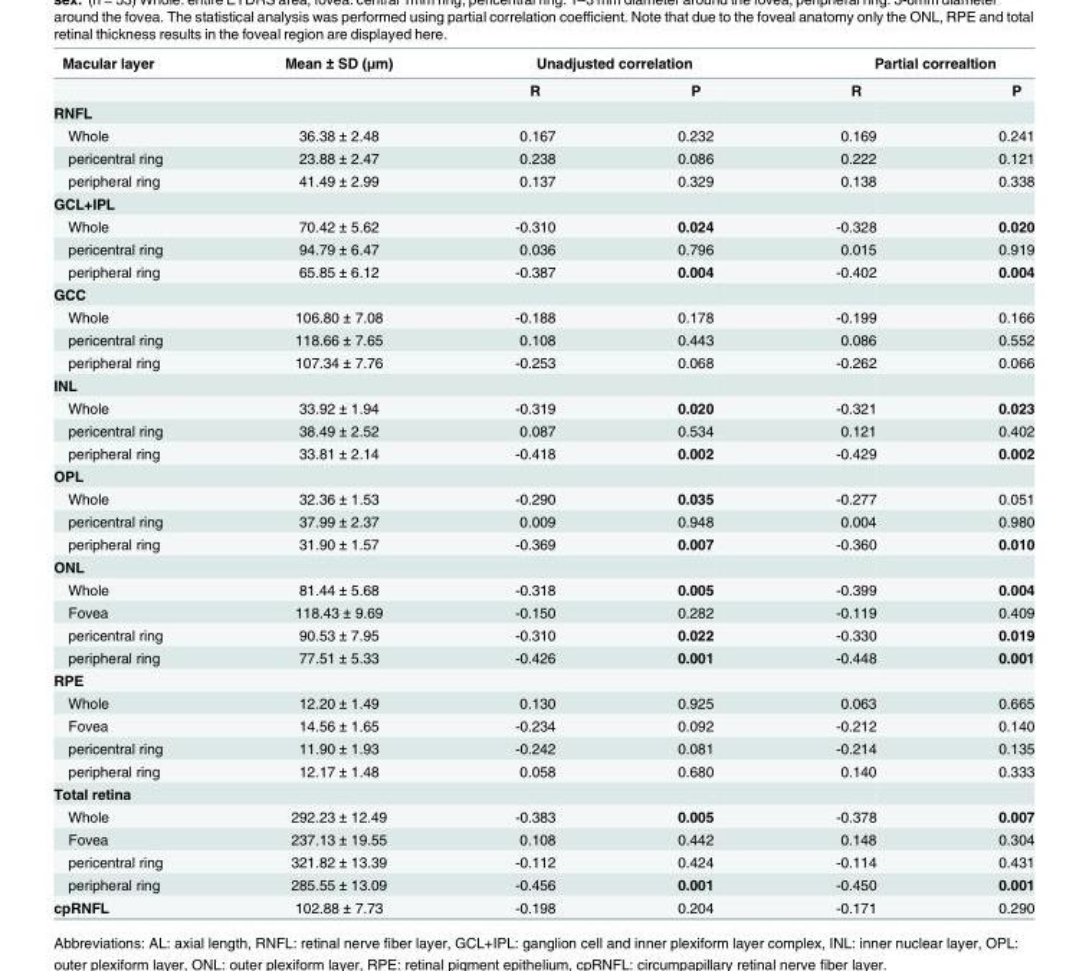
<table><thead><tr><td rowspan="2">Macular layer</td><td rowspan="2">Mean ± SD (μm)</td><td colspan="2">Unadjusted correlation</td><td colspan="2">Partial correaltion</td></tr><tr><td>R</td><td>P</td><td>R</td><td>P</td></tr></thead><tbody><tr><td colspan="6">RNFL</td></tr><tr><td>Whole</td><td>36.38 ± 2.48</td><td>0.167</td><td>0.232</td><td>0.169</td><td>0.241</td></tr><tr><td>pericentral ring</td><td>23.88 ± 2.47</td><td>0.238</td><td>0.086</td><td>0.222</td><td>0.121</td></tr><tr><td>peripheral ring</td><td>41.49 ± 2.99</td><td>0.137</td><td>0.329</td><td>0.138</td><td>0.338</td></tr><tr><td colspan="6">GCL+IPL</td></tr><tr><td>Whole</td><td>70.42 ± 5.62</td><td>-0.310</td><td>0.024</td><td>-0.328</td><td>0.020</td></tr><tr><td>pericentral ring</td><td>94.79 ± 6.47</td><td>0.036</td><td>0.796</td><td>0.015</td><td>0.919</td></tr><tr><td>peripheral ring</td><td>65.85 ± 6.12</td><td>-0.387</td><td>0.004</td><td>-0.402</td><td>0.004</td></tr><tr><td colspan="6">GCC</td></tr><tr><td>Whole</td><td>106.80 ± 7.08</td><td>-0.188</td><td>0.178</td><td>-0.199</td><td>0.166</td></tr><tr><td>pericentral ring</td><td>118.66 ± 7.65</td><td>0.108</td><td>0.443</td><td>0.086</td><td>0.552</td></tr><tr><td>peripheral ring</td><td>107.34 ± 7.76</td><td>-0.253</td><td>0.068</td><td>-0.262</td><td>0.066</td></tr><tr><td colspan="6">INL</td></tr><tr><td>Whole</td><td>33.92 ± 1.94</td><td>-0.319</td><td>0.020</td><td>-0.321</td><td>0.023</td></tr><tr><td>pericentral ring</td><td>38.49 ± 2.52</td><td>0.087</td><td>0.534</td><td>0.121</td><td>0.402</td></tr><tr><td>peripheral ring</td><td>33.81 ± 2.14</td><td>-0.418</td><td>0.002</td><td>-0.429</td><td>0.002</td></tr><tr><td colspan="6">OPL</td></tr><tr><td>Whole</td><td>32.36 ± 1.53</td><td>-0.290</td><td>0.035</td><td>-0.277</td><td>0.051</td></tr><tr><td>pericentral ring</td><td>37.99 ± 2.37</td><td>0.009</td><td>0.948</td><td>0.004</td><td>0.980</td></tr><tr><td>peripheral ring</td><td>31.90 ± 1.57</td><td>-0.369</td><td>0.007</td><td>-0.360</td><td>0.010</td></tr><tr><td colspan="6">ONL</td></tr><tr><td>Whole</td><td>81.44 ± 5.68</td><td>-0.318</td><td>0.005</td><td>-0.399</td><td>0.004</td></tr><tr><td>Fovea</td><td>118.43 ± 9.69</td><td>-0.150</td><td>0.282</td><td>-0.119</td><td>0.409</td></tr><tr><td>pericentral ring</td><td>90.53 ± 7.95</td><td>-0.310</td><td>0.022</td><td>-0.330</td><td>0.019</td></tr><tr><td>peripheral ring</td><td>77.51 ± 5.33</td><td>-0.426</td><td>0.001</td><td>-0.448</td><td>0.001</td></tr><tr><td colspan="6">RPE</td></tr><tr><td>Whole</td><td>12.20 ± 1.49</td><td>0.130</td><td>0.925</td><td>0.063</td><td>0.665</td></tr><tr><td>Fovea</td><td>14.56 ± 1.65</td><td>-0.234</td><td>0.092</td><td>-0.212</td><td>0.140</td></tr><tr><td>pericentral ring</td><td>11.90 ± 1.93</td><td>-0.242</td><td>0.081</td><td>-0.214</td><td>0.135</td></tr><tr><td>peripheral ring</td><td>12.17 ± 1.48</td><td>0.058</td><td>0.680</td><td>0.140</td><td>0.333</td></tr><tr><td colspan="6">Total retina</td></tr><tr><td>Whole</td><td>292.23 ± 12.49</td><td>-0.383</td><td>0.005</td><td>-0.378</td><td>0.007</td></tr><tr><td>Fovea</td><td>237.13 ± 19.55</td><td>0.108</td><td>0.442</td><td>0.148</td><td>0.304</td></tr><tr><td>pericentral ring</td><td>321.82 ± 13.39</td><td>-0.112</td><td>0.424</td><td>-0.114</td><td>0.431</td></tr><tr><td>peripheral ring</td><td>285.55 ± 13.09</td><td>-0.456</td><td>0.001</td><td>-0.450</td><td>0.001</td></tr><tr><td>cpRNFL</td><td>102.88 ± 7.73</td><td>-0.198</td><td>0.204</td><td>-0.171</td><td>0.290</td></tr></tbody></table>